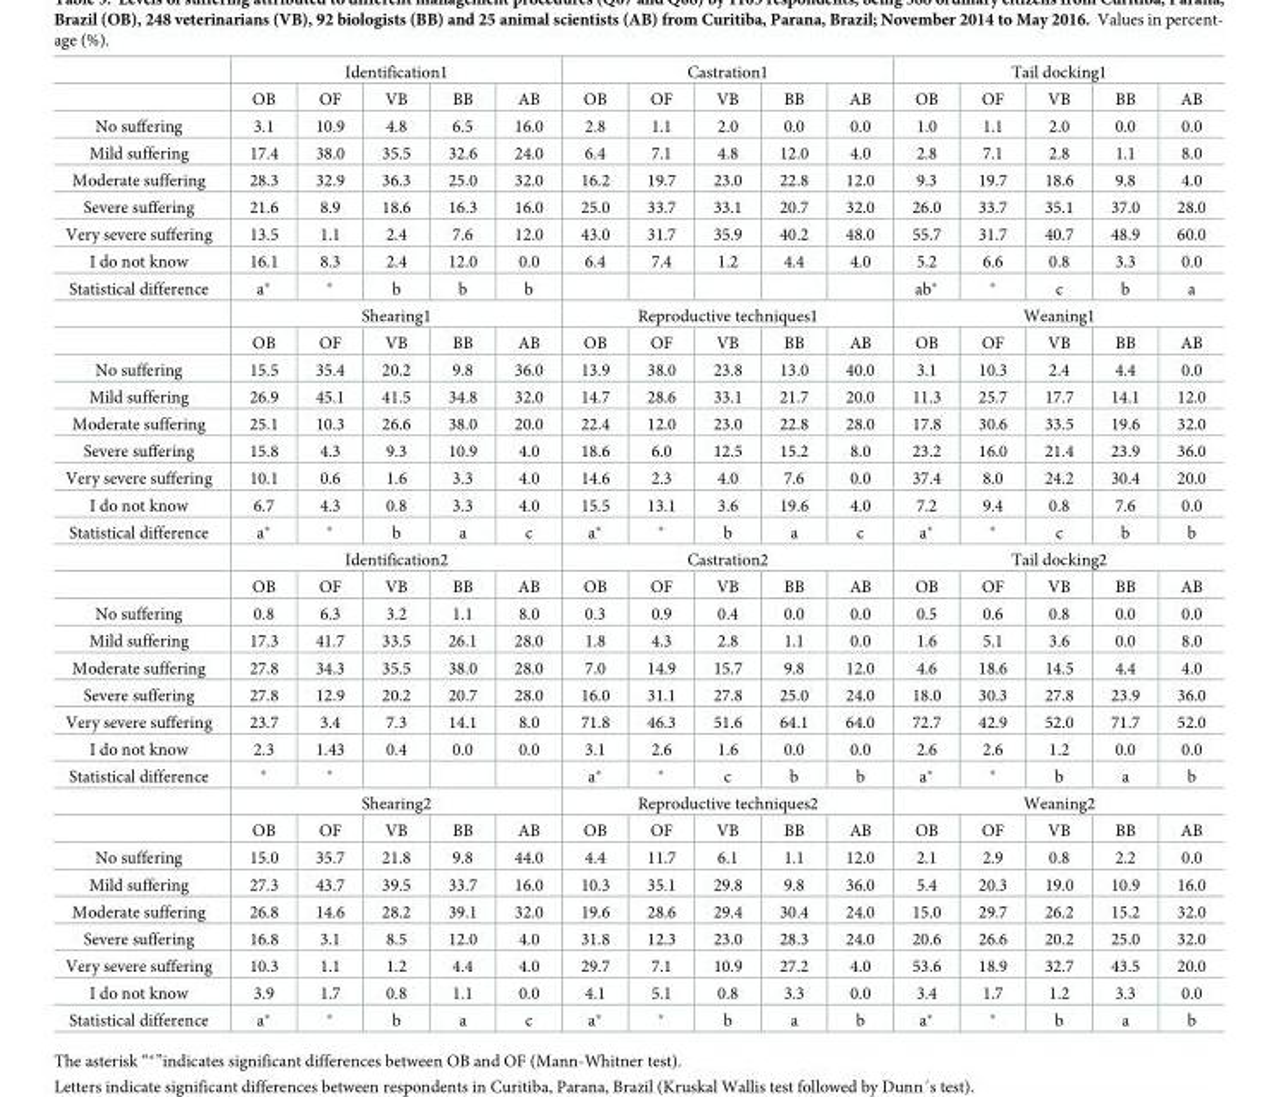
<table><thead><tr><td rowspan="2"></td><td colspan="5">Identification1</td><td colspan="5">Castration1</td><td colspan="5">Tail docking1</td></tr><tr><td>OB</td><td>OF</td><td>VB</td><td>BB</td><td>AB</td><td>OB</td><td>OF</td><td>VB</td><td>BB</td><td>AB</td><td>OB</td><td>OF</td><td>VB</td><td>BB</td><td>AB</td></tr></thead><tbody><tr><td>No suffering</td><td>3.1</td><td>10.9</td><td>4.8</td><td>6.5</td><td>16.0</td><td>2.8</td><td>1.1</td><td>2.0</td><td>0.0</td><td>0.0</td><td>1.0</td><td>1.1</td><td>2.0</td><td>0.0</td><td>0.0</td></tr><tr><td>Mild suffering</td><td>17.4</td><td>38.0</td><td>35.5</td><td>32.6</td><td>24.0</td><td>6.4</td><td>7.1</td><td>4.8</td><td>12.0</td><td>4.0</td><td>2.8</td><td>7.1</td><td>2.8</td><td>1.1</td><td>8.0</td></tr><tr><td>Moderate suffering</td><td>28.3</td><td>32.9</td><td>36.3</td><td>25.0</td><td>32.0</td><td>16.2</td><td>19.7</td><td>23.0</td><td>22.8</td><td>12.0</td><td>9.3</td><td>19.7</td><td>18.6</td><td>9.8</td><td>4.0</td></tr><tr><td>Severe suffering</td><td>21.6</td><td>8.9</td><td>18.6</td><td>16.3</td><td>16.0</td><td>25.0</td><td>33.7</td><td>33.1</td><td>20.7</td><td>32.0</td><td>26.0</td><td>33.7</td><td>35.1</td><td>37.0</td><td>28.0</td></tr><tr><td>Very severe suffering</td><td>13.5</td><td>1.1</td><td>2.4</td><td>7.6</td><td>12.0</td><td>43.0</td><td>31.7</td><td>35.9</td><td>40.2</td><td>48.0</td><td>55.7</td><td>31.7</td><td>40.7</td><td>48.9</td><td>60.0</td></tr><tr><td>I do not know</td><td>16.1</td><td>8.3</td><td>2.4</td><td>12.0</td><td>0.0</td><td>6.4</td><td>7.4</td><td>1.2</td><td>4.4</td><td>4.0</td><td>5.2</td><td>6.6</td><td>0.8</td><td>3.3</td><td>0.0</td></tr><tr><td rowspan="3">Statistical difference</td><td>a*</td><td>*</td><td>b</td><td>b</td><td>b</td><td></td><td></td><td></td><td></td><td></td><td>ab*</td><td>*</td><td>c</td><td>b</td><td>a</td></tr><tr><td colspan="5">Shearing1</td><td colspan="5">Reproductive techniques1</td><td colspan="5">Weaning1</td></tr><tr><td>OB</td><td>OF</td><td>VB</td><td>BB</td><td>AB</td><td>OB</td><td>OF</td><td>VB</td><td>BB</td><td>AB</td><td>OB</td><td>OF</td><td>VB</td><td>BB</td><td>AB</td></tr><tr><td>No suffering</td><td>15.5</td><td>35.4</td><td>20.2</td><td>9.8</td><td>36.0</td><td>13.9</td><td>38.0</td><td>23.8</td><td>13.0</td><td>40.0</td><td>3.1</td><td>10.3</td><td>2.4</td><td>4.4</td><td>0.0</td></tr><tr><td>Mild suffering</td><td>26.9</td><td>45.1</td><td>41.5</td><td>34.8</td><td>32.0</td><td>14.7</td><td>28.6</td><td>33.1</td><td>21.7</td><td>20.0</td><td>11.3</td><td>25.7</td><td>17.7</td><td>14.1</td><td>12.0</td></tr><tr><td>Moderate suffering</td><td>25.1</td><td>10.3</td><td>26.6</td><td>38.0</td><td>20.0</td><td>22.4</td><td>12.0</td><td>23.0</td><td>22.8</td><td>28.0</td><td>17.8</td><td>30.6</td><td>33.5</td><td>19.6</td><td>32.0</td></tr><tr><td>Severe suffering</td><td>15.8</td><td>4.3</td><td>9.3</td><td>10.9</td><td>4.0</td><td>18.6</td><td>6.0</td><td>12.5</td><td>15.2</td><td>8.0</td><td>23.2</td><td>16.0</td><td>21.4</td><td>23.9</td><td>36.0</td></tr><tr><td>Very severe suffering</td><td>10.1</td><td>0.6</td><td>1.6</td><td>3.3</td><td>4.0</td><td>14.6</td><td>2.3</td><td>4.0</td><td>7.6</td><td>0.0</td><td>37.4</td><td>8.0</td><td>24.2</td><td>30.4</td><td>20.0</td></tr><tr><td>I do not know</td><td>6.7</td><td>4.3</td><td>0.8</td><td>3.3</td><td>4.0</td><td>15.5</td><td>13.1</td><td>3.6</td><td>19.6</td><td>4.0</td><td>7.2</td><td>9.4</td><td>0.8</td><td>7.6</td><td>0.0</td></tr><tr><td rowspan="3">Statistical difference</td><td>a*</td><td>*</td><td>b</td><td>a</td><td>c</td><td>a*</td><td>*</td><td>b</td><td>a</td><td>c</td><td>a*</td><td>*</td><td>c</td><td>b</td><td>b</td></tr><tr><td colspan="5">Identification2</td><td colspan="5">Castration2</td><td colspan="5">Tail docking2</td></tr><tr><td>OB</td><td>OF</td><td>VB</td><td>BB</td><td>AB</td><td>OB</td><td>OF</td><td>VB</td><td>BB</td><td>AB</td><td>OB</td><td>OF</td><td>VB</td><td>BB</td><td>AB</td></tr><tr><td>No suffering</td><td>0.8</td><td>6.3</td><td>3.2</td><td>1.1</td><td>8.0</td><td>0.3</td><td>0.9</td><td>0.4</td><td>0.0</td><td>0.0</td><td>0.5</td><td>0.6</td><td>0.8</td><td>0.0</td><td>0.0</td></tr><tr><td>Mild suffering</td><td>17.3</td><td>41.7</td><td>33.5</td><td>26.1</td><td>28.0</td><td>1.8</td><td>4.3</td><td>2.8</td><td>1.1</td><td>0.0</td><td>1.6</td><td>5.1</td><td>3.6</td><td>0.0</td><td>8.0</td></tr><tr><td>Moderate suffering</td><td>27.8</td><td>34.3</td><td>35.5</td><td>38.0</td><td>28.0</td><td>7.0</td><td>14.9</td><td>15.7</td><td>9.8</td><td>12.0</td><td>4.6</td><td>18.6</td><td>14.5</td><td>4.4</td><td>4.0</td></tr><tr><td>Severe suffering</td><td>27.8</td><td>12.9</td><td>20.2</td><td>20.7</td><td>28.0</td><td>16.0</td><td>31.1</td><td>27.8</td><td>25.0</td><td>24.0</td><td>18.0</td><td>30.3</td><td>27.8</td><td>23.9</td><td>36.0</td></tr><tr><td>Very severe suffering</td><td>23.7</td><td>3.4</td><td>7.3</td><td>14.1</td><td>8.0</td><td>71.8</td><td>46.3</td><td>51.6</td><td>64.1</td><td>64.0</td><td>72.7</td><td>42.9</td><td>52.0</td><td>71.7</td><td>52.0</td></tr><tr><td>I do not know</td><td>2.3</td><td>1.43</td><td>0.4</td><td>0.0</td><td>0.0</td><td>3.1</td><td>2.6</td><td>1.6</td><td>0.0</td><td>0.0</td><td>2.6</td><td>2.6</td><td>1.2</td><td>0.0</td><td>0.0</td></tr><tr><td rowspan="3">Statistical difference</td><td>*</td><td>*</td><td></td><td></td><td></td><td>a*</td><td>*</td><td>c</td><td>b</td><td>b</td><td>a*</td><td>*</td><td>b</td><td>a</td><td>b</td></tr><tr><td colspan="5">Shearing2</td><td colspan="5">Reproductive techniques2</td><td colspan="5">Weaning2</td></tr><tr><td>OB</td><td>OF</td><td>VB</td><td>BB</td><td>AB</td><td>OB</td><td>OF</td><td>VB</td><td>BB</td><td>AB</td><td>OB</td><td>OF</td><td>VB</td><td>BB</td><td>AB</td></tr><tr><td>No suffering</td><td>15.0</td><td>35.7</td><td>21.8</td><td>9.8</td><td>44.0</td><td>4.4</td><td>11.7</td><td>6.1</td><td>1.1</td><td>12.0</td><td>2.1</td><td>2.9</td><td>0.8</td><td>2.2</td><td>0.0</td></tr><tr><td>Mild suffering</td><td>27.3</td><td>43.7</td><td>39.5</td><td>33.7</td><td>16.0</td><td>10.3</td><td>35.1</td><td>29.8</td><td>9.8</td><td>36.0</td><td>5.4</td><td>20.3</td><td>19.0</td><td>10.9</td><td>16.0</td></tr><tr><td>Moderate suffering</td><td>26.8</td><td>14.6</td><td>28.2</td><td>39.1</td><td>32.0</td><td>19.6</td><td>28.6</td><td>29.4</td><td>30.4</td><td>24.0</td><td>15.0</td><td>29.7</td><td>26.2</td><td>15.2</td><td>32.0</td></tr><tr><td>Severe suffering</td><td>16.8</td><td>3.1</td><td>8.5</td><td>12.0</td><td>4.0</td><td>31.8</td><td>12.3</td><td>23.0</td><td>28.3</td><td>24.0</td><td>20.6</td><td>26.6</td><td>20.2</td><td>25.0</td><td>32.0</td></tr><tr><td>Very severe suffering</td><td>10.3</td><td>1.1</td><td>1.2</td><td>4.4</td><td>4.0</td><td>29.7</td><td>7.1</td><td>10.9</td><td>27.2</td><td>4.0</td><td>53.6</td><td>18.9</td><td>32.7</td><td>43.5</td><td>20.0</td></tr><tr><td>I do not know</td><td>3.9</td><td>1.7</td><td>0.8</td><td>1.1</td><td>0.0</td><td>4.1</td><td>5.1</td><td>0.8</td><td>3.3</td><td>0.0</td><td>3.4</td><td>1.7</td><td>1.2</td><td>3.3</td><td>0.0</td></tr><tr><td>Statistical difference</td><td>a*</td><td>*</td><td>b</td><td>a</td><td>c</td><td>a*</td><td>*</td><td>b</td><td>a</td><td>b</td><td>a*</td><td>*</td><td>b</td><td>a</td><td>b</td></tr></tbody></table>